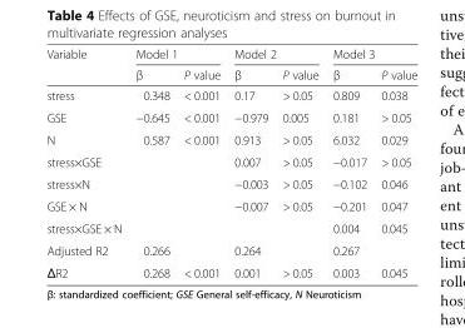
<table><thead><tr><td rowspan="2">Variable</td><td colspan="2">Model 1</td><td colspan="2">Model 2</td><td colspan="2">Model 3</td></tr><tr><td>β</td><td>P value</td><td>β</td><td>P value</td><td>β</td><td>P value</td></tr></thead><tbody><tr><td>stress</td><td>0.348</td><td>&lt; 0.001</td><td>0.17</td><td>&gt; 0.05</td><td>0.809</td><td>0.038</td></tr><tr><td>GSE</td><td>−0.645</td><td>&lt; 0.001</td><td>−0.979</td><td>0.005</td><td>0.181</td><td>&gt; 0.05</td></tr><tr><td>N</td><td>0.587</td><td>&lt; 0.001</td><td>0.913</td><td>&gt; 0.05</td><td>6.032</td><td>0.029</td></tr><tr><td>stress×GSE</td><td></td><td></td><td>0.007</td><td>&gt; 0.05</td><td>−0.017</td><td>&gt; 0.05</td></tr><tr><td>stress×N</td><td></td><td></td><td>−0.003</td><td>&gt; 0.05</td><td>−0.102</td><td>0.046</td></tr><tr><td>GSE × N</td><td></td><td></td><td>−0.007</td><td>&gt; 0.05</td><td>−0.201</td><td>0.047</td></tr><tr><td>stress×GSE × N</td><td></td><td></td><td></td><td></td><td>0.004</td><td>0.045</td></tr><tr><td>Adjusted R2</td><td>0.266</td><td></td><td>0.264</td><td></td><td>0.267</td><td></td></tr><tr><td>ΔR2</td><td>0.268</td><td>&lt; 0.001</td><td>0.001</td><td>&gt; 0.05</td><td>0.003</td><td>0.045</td></tr></tbody></table>